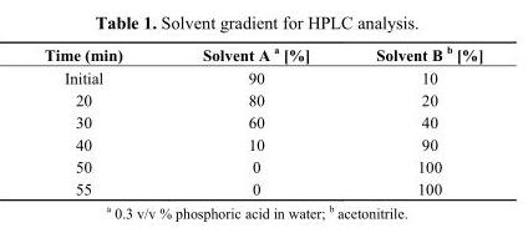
<table><thead><tr><td>Time (min)</td><td>Solvent A <sup>a</sup> [%]</td><td>Solvent B <sup>b</sup> [%]</td></tr></thead><tbody><tr><td>Initial</td><td>90</td><td>10</td></tr><tr><td>20</td><td>80</td><td>20</td></tr><tr><td>30</td><td>60</td><td>40</td></tr><tr><td>40</td><td>10</td><td>90</td></tr><tr><td>50</td><td>0</td><td>100</td></tr><tr><td>55</td><td>0</td><td>100</td></tr></tbody></table>